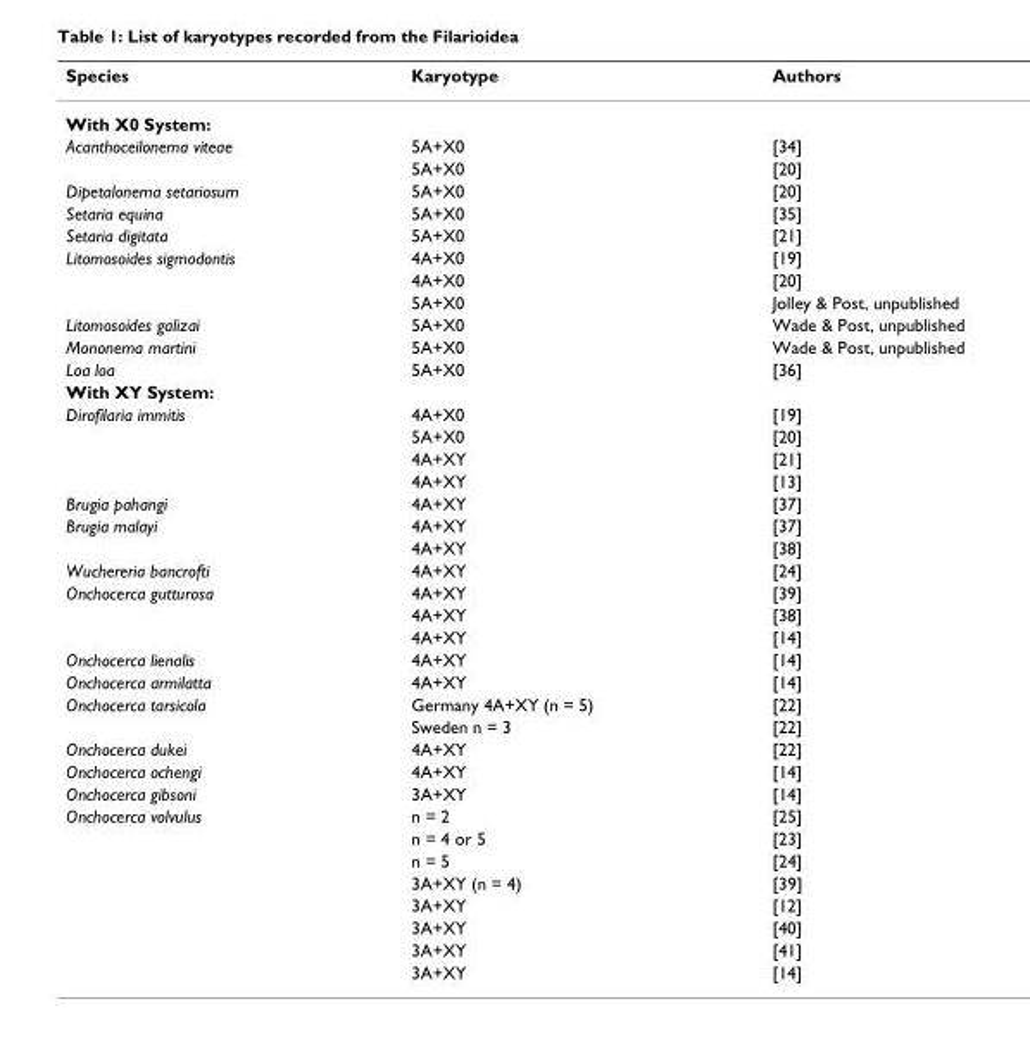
<table><thead><tr><td>Species</td><td>Karyotype</td><td>Authors</td></tr></thead><tbody><tr><td colspan="3">With X0 System:</td></tr><tr><td rowspan="2">Acanthoceilonema viteae</td><td>5A+X0</td><td>[34]</td></tr><tr><td>5A+X0</td><td>[20]</td></tr><tr><td>Dipetalonema setariosum</td><td>5A+X0</td><td>[20]</td></tr><tr><td>Setaria equina</td><td>5A+X0</td><td>[35]</td></tr><tr><td>Setaria digitata</td><td>5A+X0</td><td>[21]</td></tr><tr><td rowspan="3">Litomosoides sigmodontis</td><td>4A+X0</td><td>[19]</td></tr><tr><td>4A+X0</td><td>[20]</td></tr><tr><td>5A+X0</td><td>Jolley &amp; Post, unpublished</td></tr><tr><td>Litomosoides galizai</td><td>5A+X0</td><td>Wade &amp; Post, unpublished</td></tr><tr><td>Mononema martini</td><td>5A+X0</td><td>Wade &amp; Post, unpublished</td></tr><tr><td>Loa loa</td><td>5A+X0</td><td>[36]</td></tr><tr><td colspan="3">With XY System:</td></tr><tr><td rowspan="4">Dirofilaria immitis</td><td>4A+X0</td><td>[19]</td></tr><tr><td>5A+X0</td><td>[20]</td></tr><tr><td>4A+XY</td><td>[21]</td></tr><tr><td>4A+XY</td><td>[13]</td></tr><tr><td>Brugia pahangi</td><td>4A+XY</td><td>[37]</td></tr><tr><td rowspan="2">Brugia malayi</td><td>4A+XY</td><td>[37]</td></tr><tr><td>4A+XY</td><td>[38]</td></tr><tr><td>Wuchereria bancrofti</td><td>4A+XY</td><td>[24]</td></tr><tr><td rowspan="3">Onchocerca gutturosa</td><td>4A+XY</td><td>[39]</td></tr><tr><td>4A+XY</td><td>[38]</td></tr><tr><td>4A+XY</td><td>[14]</td></tr><tr><td>Onchocerca lienalis</td><td>4A+XY</td><td>[14]</td></tr><tr><td>Onchocerca armilatta</td><td>4A+XY</td><td>[14]</td></tr><tr><td rowspan="2">Onchocerca tarsicola</td><td>Germany 4A+XY (n = 5)</td><td>[22]</td></tr><tr><td>Sweden n = 3</td><td>[22]</td></tr><tr><td>Onchocerca dukei</td><td>4A+XY</td><td>[22]</td></tr><tr><td>Onchocerca ochengi</td><td>4A+XY</td><td>[14]</td></tr><tr><td>Onchocerca gibsoni</td><td>3A+XY</td><td>[14]</td></tr><tr><td rowspan="8">Onchocerca volvulus</td><td>n = 2</td><td>[25]</td></tr><tr><td>n = 4 or 5</td><td>[23]</td></tr><tr><td>n = 5</td><td>[24]</td></tr><tr><td>3A+XY (n = 4)</td><td>[39]</td></tr><tr><td>3A+XY</td><td>[12]</td></tr><tr><td>3A+XY</td><td>[40]</td></tr><tr><td>3A+XY</td><td>[41]</td></tr><tr><td>3A+XY</td><td>[14]</td></tr></tbody></table>